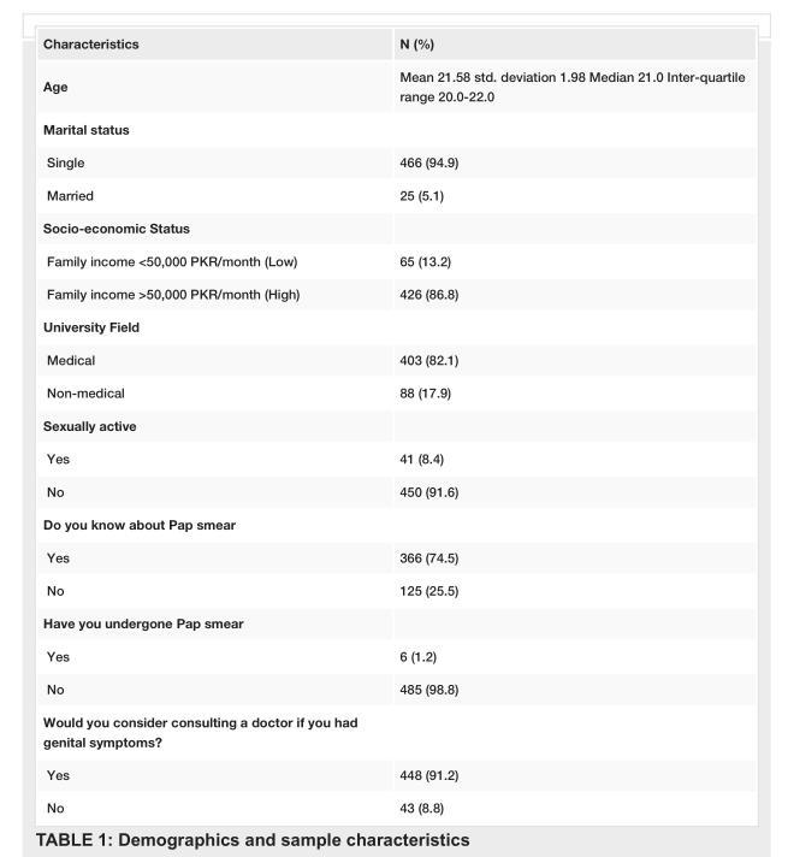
<table><tbody><tr><td>Characteristics</td><td>N (%)</td></tr><tr><td>Age</td><td>Mean 21.58 std. deviation 1.98 Median 21.0 Inter-quartile range 20.0-22.0</td></tr><tr><td colspan="2">Marital status</td></tr><tr><td>Single</td><td>466 (94.9)</td></tr><tr><td>Married</td><td>25 (5.1)</td></tr><tr><td colspan="2">Socio-economic Status</td></tr><tr><td>Family income &lt;50,000 PKR/month (Low)</td><td>65 (13.2)</td></tr><tr><td>Family income &gt;50,000 PKR/month (High)</td><td>426 (86.8)</td></tr><tr><td colspan="2">University Field</td></tr><tr><td>Medical</td><td>403 (82.1)</td></tr><tr><td>Non-medical</td><td>88 (17.9)</td></tr><tr><td colspan="2">Sexually active</td></tr><tr><td>Yes</td><td>41 (8.4)</td></tr><tr><td>No</td><td>450 (91.6)</td></tr><tr><td colspan="2">Do you know about Pap smear</td></tr><tr><td>Yes</td><td>366 (74.5)</td></tr><tr><td>No</td><td>125 (25.5)</td></tr><tr><td colspan="2">Have you undergone Pap smear</td></tr><tr><td>Yes</td><td>6 (1.2)</td></tr><tr><td>No</td><td>485 (98.8)</td></tr><tr><td colspan="2">Would you consider consulting a doctor if you had genital symptoms?</td></tr><tr><td>Yes</td><td>448 (91.2)</td></tr><tr><td>No</td><td>43 (8.8)</td></tr></tbody></table>